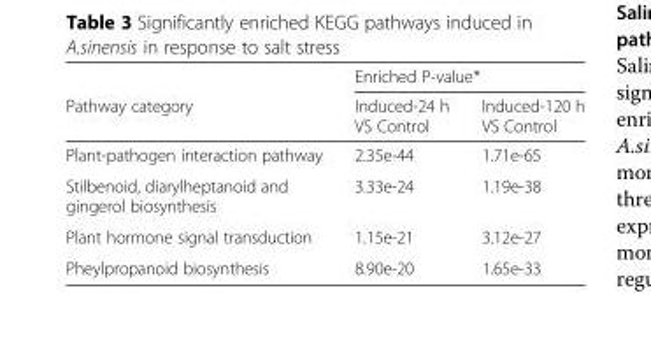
<table><thead><tr><td rowspan="2">Pathway category</td><td colspan="2">Enriched P-value*</td></tr><tr><td>Induced-24 h VS Control</td><td>Induced-120 h VS Control</td></tr></thead><tbody><tr><td>Plant-pathogen interaction pathway</td><td>2.35e-44</td><td>1.71e-65</td></tr><tr><td>Stilbenoid, diarylheptanoid and gingerol biosynthesis</td><td>3.33e-24</td><td>1.19e-38</td></tr><tr><td>Plant hormone signal transduction</td><td>1.15e-21</td><td>3.12e-27</td></tr><tr><td>Pheylpropanoid biosynthesis</td><td>8.90e-20</td><td>1.65e-33</td></tr></tbody></table>